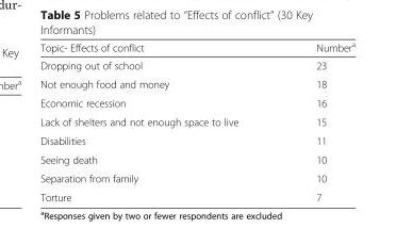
<table><thead><tr><td>Topic- Effects of conflict</td><td>Number<sup>a</sup></td></tr></thead><tbody><tr><td>Dropping out of school</td><td>23</td></tr><tr><td>Not enough food and money</td><td>18</td></tr><tr><td>Economic recession</td><td>16</td></tr><tr><td>Lack of shelters and not enough space to live</td><td>15</td></tr><tr><td>Disabilities</td><td>11</td></tr><tr><td>Seeing death</td><td>10</td></tr><tr><td>Separation from family</td><td>10</td></tr><tr><td>Torture</td><td>7</td></tr></tbody></table>